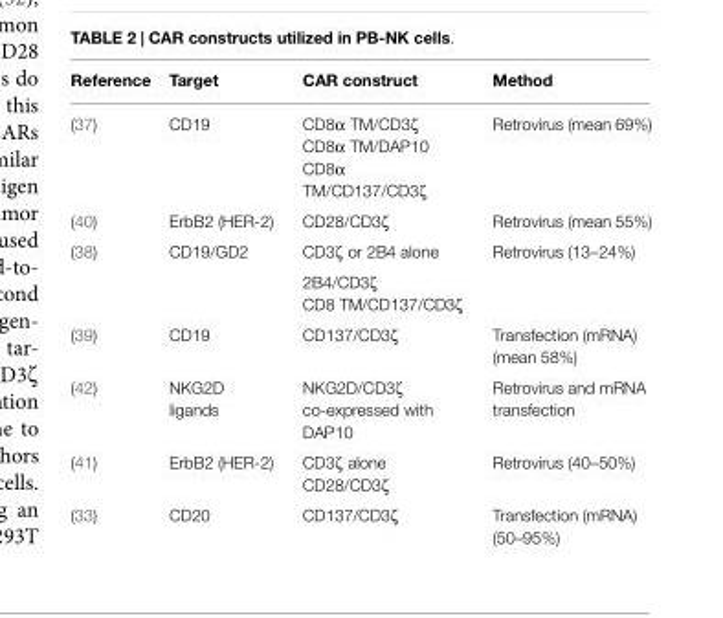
<table><thead><tr><td>Reference</td><td>Target</td><td>CAR construct</td><td>Method</td></tr></thead><tbody><tr><td rowspan="3">(37)</td><td>CD19</td><td>CD8α TM/CD3ζ</td><td>Retrovirus (mean 69%)</td></tr><tr><td></td><td>CD8α TM/DAP10</td><td></td></tr><tr><td></td><td>CD8α TM/CD137/CD3ζ</td><td></td></tr><tr><td>(40)</td><td>ErbB2 (HER-2)</td><td>CD28/CD3ζ</td><td>Retrovirus (mean 55%)</td></tr><tr><td rowspan="3">(38)</td><td>CD19/GD2</td><td>CD3ζ or 2B4 alone</td><td>Retrovirus (13–24%)</td></tr><tr><td></td><td>2B4/CD3ζ</td><td></td></tr><tr><td></td><td>CD8 TM/CD137/CD3ζ</td><td></td></tr><tr><td>(39)</td><td>CD19</td><td>CD137/CD3ζ</td><td>Transfection (mRNA) (mean 58%)</td></tr><tr><td>(42)</td><td>NKG2D ligands</td><td>NKG2D/CD3ζ co-expressed with DAP10</td><td>Retrovirus and mRNA transfection</td></tr><tr><td rowspan="2">(41)</td><td>ErbB2 (HER-2)</td><td>CD3ζ alone</td><td>Retrovirus (40–50%)</td></tr><tr><td></td><td>CD28/CD3ζ</td><td></td></tr><tr><td>(33)</td><td>CD20</td><td>CD137/CD3ζ</td><td>Transfection (mRNA) (50–95%)</td></tr></tbody></table>